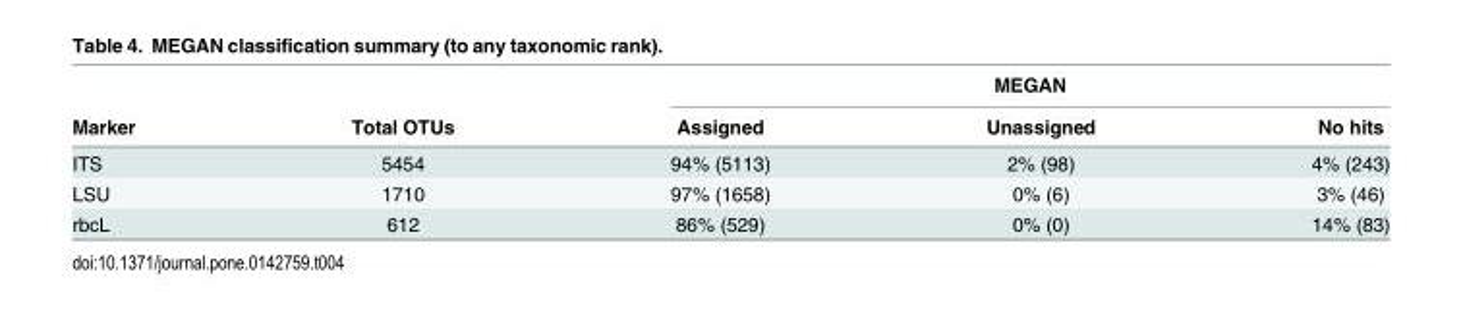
<table><thead><tr><td rowspan="2">Marker</td><td rowspan="2">Total OTUs</td><td colspan="3">MEGAN</td></tr><tr><td>Assigned</td><td>Unassigned</td><td>No hits</td></tr></thead><tbody><tr><td>ITS</td><td>5454</td><td>94% (5113)</td><td>2% (98)</td><td>4% (243)</td></tr><tr><td>LSU</td><td>1710</td><td>97% (1658)</td><td>0% (6)</td><td>3% (46)</td></tr><tr><td>rbcL</td><td>612</td><td>86% (529)</td><td>0% (0)</td><td>14% (83)</td></tr></tbody></table>